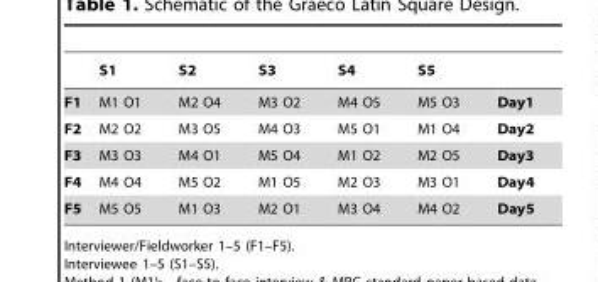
<table><thead><tr><td></td><td>S1</td><td>S2</td><td>S3</td><td>S4</td><td>S5</td><td></td></tr></thead><tbody><tr><td>F1</td><td>M1 O1</td><td>M2 O4</td><td>M3 O2</td><td>M4 O5</td><td>M5 O3</td><td>Day1</td></tr><tr><td>F2</td><td>M2 O2</td><td>M3 O5</td><td>M4 O3</td><td>M5 O1</td><td>M1 O4</td><td>Day2</td></tr><tr><td>F3</td><td>M3 O3</td><td>M4 O1</td><td>M5 O4</td><td>M1 O2</td><td>M2 O5</td><td>Day3</td></tr><tr><td>F4</td><td>M4 O4</td><td>M5 O2</td><td>M1 O5</td><td>M2 O3</td><td>M3 O1</td><td>Day4</td></tr><tr><td>F5</td><td>M5 O5</td><td>M1 O3</td><td>M2 O1</td><td>M3 O4</td><td>M4 O2</td><td>Day5</td></tr></tbody></table>